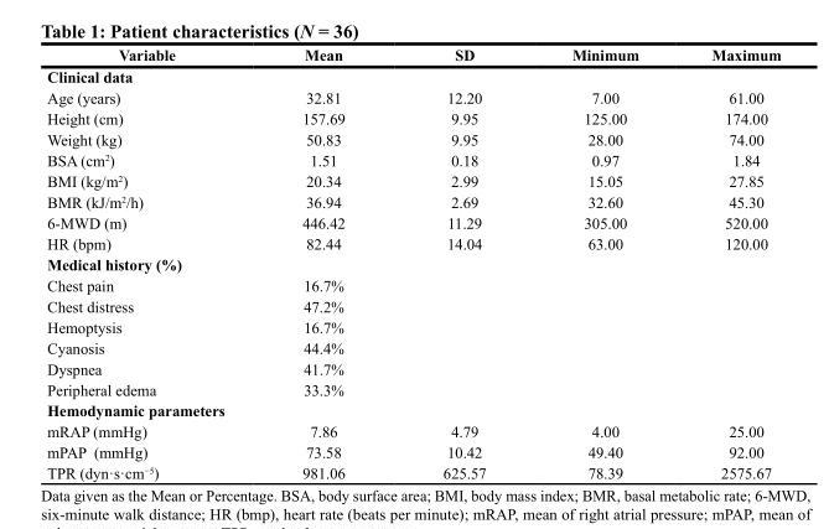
<table><thead><tr><td>Variable</td><td>Mean</td><td>SD</td><td>Minimum</td><td>Maximum</td></tr></thead><tbody><tr><td colspan="5">Clinical data</td></tr><tr><td>Age (years)</td><td>32.81</td><td>12.20</td><td>7.00</td><td>61.00</td></tr><tr><td>Height (cm)</td><td>157.69</td><td>9.95</td><td>125.00</td><td>174.00</td></tr><tr><td>Weight (kg)</td><td>50.83</td><td>9.95</td><td>28.00</td><td>74.00</td></tr><tr><td>BSA (cm<sup>2</sup>)</td><td>1.51</td><td>0.18</td><td>0.97</td><td>1.84</td></tr><tr><td>BMI (kg/m<sup>2</sup>)</td><td>20.34</td><td>2.99</td><td>15.05</td><td>27.85</td></tr><tr><td>BMR (kJ/m<sup>2</sup>/h)</td><td>36.94</td><td>2.69</td><td>32.60</td><td>45.30</td></tr><tr><td>6-MWD (m)</td><td>446.42</td><td>11.29</td><td>305.00</td><td>520.00</td></tr><tr><td>HR (bpm)</td><td>82.44</td><td>14.04</td><td>63.00</td><td>120.00</td></tr><tr><td colspan="5">Medical history (%)</td></tr><tr><td>Chest pain</td><td>16.7%</td><td></td><td></td><td></td></tr><tr><td>Chest distress</td><td>47.2%</td><td></td><td></td><td></td></tr><tr><td>Hemoptysis</td><td>16.7%</td><td></td><td></td><td></td></tr><tr><td>Cyanosis</td><td>44.4%</td><td></td><td></td><td></td></tr><tr><td>Dyspnea</td><td>41.7%</td><td></td><td></td><td></td></tr><tr><td>Peripheral edema</td><td>33.3%</td><td></td><td></td><td></td></tr><tr><td colspan="5">Hemodynamic parameters</td></tr><tr><td>mRAP (mmHg)</td><td>7.86</td><td>4.79</td><td>4.00</td><td>25.00</td></tr><tr><td>mPAP (mmHg)</td><td>73.58</td><td>10.42</td><td>49.40</td><td>92.00</td></tr><tr><td>TPR (dyn·s·cm<sup>−5</sup>)</td><td>981.06</td><td>625.57</td><td>78.39</td><td>2575.67</td></tr></tbody></table>